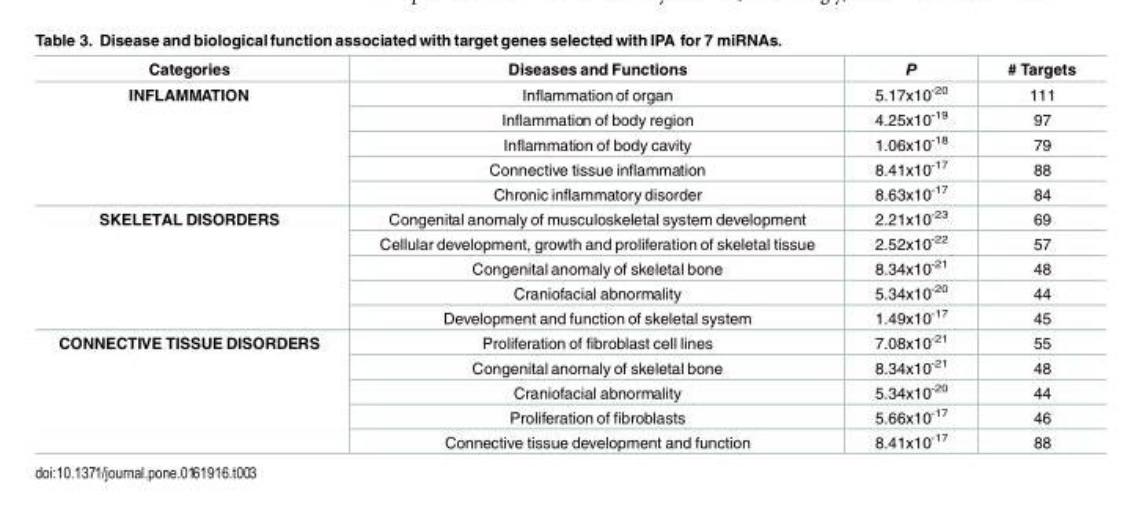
<table><thead><tr><td>Categories</td><td>Diseases and Functions</td><td>P</td><td># Targets</td></tr></thead><tbody><tr><td rowspan="5">INFLAMMATION</td><td>Inflammation of organ</td><td>5.17x10<sup>-20</sup></td><td>111</td></tr><tr><td>Inflammation of body region</td><td>4.25x10<sup>-19</sup></td><td>97</td></tr><tr><td>Inflammation of body cavity</td><td>1.06x10<sup>-18</sup></td><td>79</td></tr><tr><td>Connective tissue inflammation</td><td>8.41x10<sup>-17</sup></td><td>88</td></tr><tr><td>Chronic inflammatory disorder</td><td>8.63x10<sup>-17</sup></td><td>84</td></tr><tr><td rowspan="5">SKELETAL DISORDERS</td><td>Congenital anomaly of musculoskeletal system development</td><td>2.21x10<sup>-23</sup></td><td>69</td></tr><tr><td>Cellular development, growth and proliferation of skeletal tissue</td><td>2.52x10<sup>-22</sup></td><td>57</td></tr><tr><td>Congenital anomaly of skeletal bone</td><td>8.34x10<sup>-21</sup></td><td>48</td></tr><tr><td>Craniofacial abnormality</td><td>5.34x10<sup>-20</sup></td><td>44</td></tr><tr><td>Development and function of skeletal system</td><td>1.49x10<sup>-17</sup></td><td>45</td></tr><tr><td rowspan="5">CONNECTIVE TISSUE DISORDERS</td><td>Proliferation of fibroblast cell lines</td><td>7.08x10<sup>-21</sup></td><td>55</td></tr><tr><td>Congenital anomaly of skeletal bone</td><td>8.34x10<sup>-21</sup></td><td>48</td></tr><tr><td>Craniofacial abnormality</td><td>5.34x10<sup>-20</sup></td><td>44</td></tr><tr><td>Proliferation of fibroblasts</td><td>5.66x10<sup>-17</sup></td><td>46</td></tr><tr><td>Connective tissue development and function</td><td>8.41x10<sup>-17</sup></td><td>88</td></tr></tbody></table>